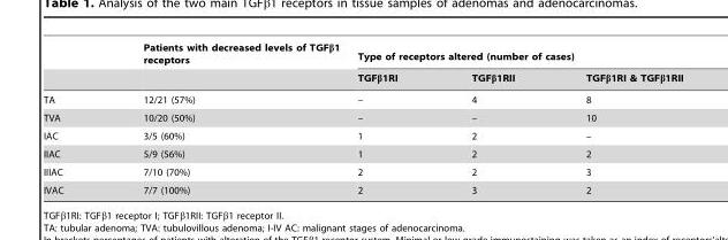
<table><thead><tr><td rowspan="2"></td><td rowspan="2">Patients with decreased levels of TGFβ1 receptors</td><td colspan="3">Type of receptors altered (number of cases)</td></tr><tr><td>TGFβ1RI</td><td>TGFβ1RII</td><td>TGFβ1RI &amp; TGFβ1RII</td></tr></thead><tbody><tr><td>TA</td><td>12/21 (57%)</td><td>–</td><td>4</td><td>8</td></tr><tr><td>TVA</td><td>10/20 (50%)</td><td>–</td><td>–</td><td>10</td></tr><tr><td>IAC</td><td>3/5 (60%)</td><td>1</td><td>2</td><td>–</td></tr><tr><td>IIAC</td><td>5/9 (56%)</td><td>1</td><td>2</td><td>2</td></tr><tr><td>IIIAC</td><td>7/10 (70%)</td><td>2</td><td>2</td><td>3</td></tr><tr><td>IVAC</td><td>7/7 (100%)</td><td>2</td><td>3</td><td>2</td></tr></tbody></table>